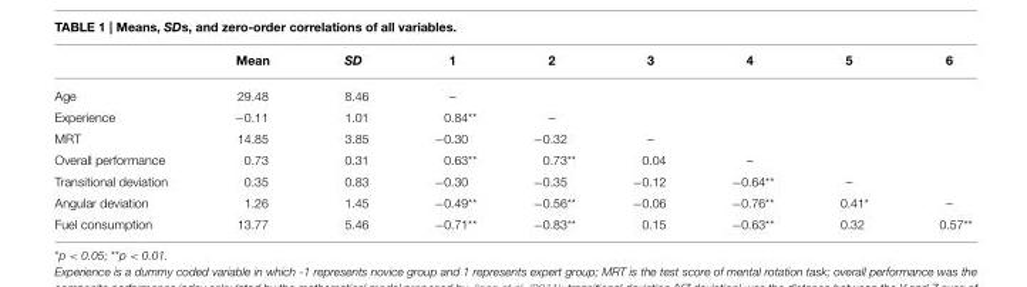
<table><thead><tr><td></td><td>Mean</td><td>SD</td><td>1</td><td>2</td><td>3</td><td>4</td><td>5</td><td>6</td></tr></thead><tbody><tr><td>Age</td><td>29.48</td><td>8.46</td><td>–</td><td></td><td></td><td></td><td></td><td></td></tr><tr><td>Experience</td><td>−0.11</td><td>1.01</td><td>0.84**</td><td>–</td><td></td><td></td><td></td><td></td></tr><tr><td>MRT</td><td>14.85</td><td>3.85</td><td>−0.30</td><td>−0.32</td><td>–</td><td></td><td></td><td></td></tr><tr><td>Overall performance</td><td>0.73</td><td>0.31</td><td>0.63**</td><td>0.73**</td><td>0.04</td><td>–</td><td></td><td></td></tr><tr><td>Transitional deviation</td><td>0.35</td><td>0.83</td><td>−0.30</td><td>−0.35</td><td>−0.12</td><td>−0.64**</td><td>–</td><td></td></tr><tr><td>Angular deviation</td><td>1.26</td><td>1.45</td><td>−0.49**</td><td>−0.56**</td><td>−0.06</td><td>−0.76**</td><td>0.41*</td><td>–</td></tr><tr><td>Fuel consumption</td><td>13.77</td><td>5.46</td><td>−0.71**</td><td>−0.83**</td><td>0.15</td><td>−0.63**</td><td>0.32</td><td>0.57**</td></tr></tbody></table>